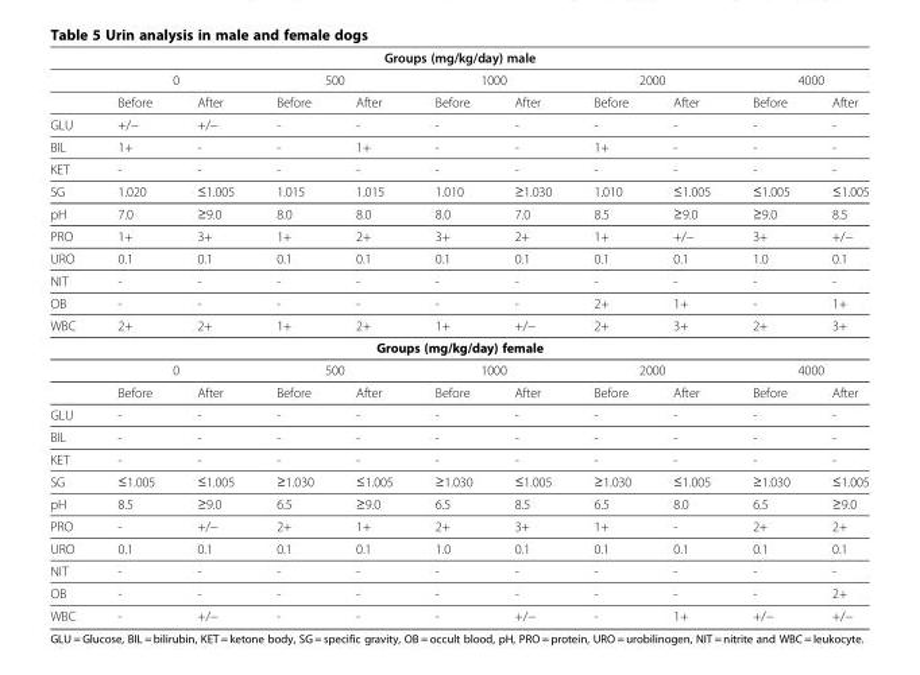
<table><thead><tr><td colspan="11">Groups (mg/kg/day) male</td></tr><tr><td rowspan="2"></td><td colspan="2">0</td><td colspan="2">500</td><td colspan="2">1000</td><td colspan="2">2000</td><td colspan="2">4000</td></tr><tr><td>Before</td><td>After</td><td>Before</td><td>After</td><td>Before</td><td>After</td><td>Before</td><td>After</td><td>Before</td><td>After</td></tr></thead><tbody><tr><td>GLU</td><td>+/−</td><td>+/−</td><td>-</td><td>-</td><td>-</td><td>-</td><td>-</td><td>-</td><td>-</td><td>-</td></tr><tr><td>BIL</td><td>1+</td><td>-</td><td>-</td><td>1+</td><td>-</td><td>-</td><td>1+</td><td>-</td><td>-</td><td>-</td></tr><tr><td>KET</td><td>-</td><td>-</td><td>-</td><td>-</td><td>-</td><td>-</td><td>-</td><td>-</td><td>-</td><td>-</td></tr><tr><td>SG</td><td>1.020</td><td>≤1.005</td><td>1.015</td><td>1.015</td><td>1.010</td><td>≥1.030</td><td>1.010</td><td>≤1.005</td><td>≤1.005</td><td>≤1.005</td></tr><tr><td>pH</td><td>7.0</td><td>≥9.0</td><td>8.0</td><td>8.0</td><td>8.0</td><td>7.0</td><td>8.5</td><td>≥9.0</td><td>≥9.0</td><td>8.5</td></tr><tr><td>PRO</td><td>1+</td><td>3+</td><td>1+</td><td>2+</td><td>3+</td><td>2+</td><td>1+</td><td>+/−</td><td>3+</td><td>+/−</td></tr><tr><td>URO</td><td>0.1</td><td>0.1</td><td>0.1</td><td>0.1</td><td>0.1</td><td>0.1</td><td>0.1</td><td>0.1</td><td>1.0</td><td>0.1</td></tr><tr><td>NIT</td><td>-</td><td>-</td><td>-</td><td>-</td><td>-</td><td>-</td><td>-</td><td>-</td><td>-</td><td>-</td></tr><tr><td>OB</td><td>-</td><td>-</td><td>-</td><td>-</td><td>-</td><td>-</td><td>2+</td><td>1+</td><td>-</td><td>1+</td></tr><tr><td>WBC</td><td>2+</td><td>2+</td><td>1+</td><td>2+</td><td>1+</td><td>+/−</td><td>2+</td><td>3+</td><td>2+</td><td>3+</td></tr><tr><td colspan="11">Groups (mg/kg/day) female</td></tr><tr><td></td><td colspan="2">0</td><td colspan="2">500</td><td colspan="2">1000</td><td colspan="2">2000</td><td colspan="2">4000</td></tr><tr><td></td><td>Before</td><td>After</td><td>Before</td><td>After</td><td>Before</td><td>After</td><td>Before</td><td>After</td><td>Before</td><td>After</td></tr><tr><td>GLU</td><td>-</td><td>-</td><td>-</td><td>-</td><td>-</td><td>-</td><td>-</td><td>-</td><td>-</td><td>-</td></tr><tr><td>BIL</td><td>-</td><td>-</td><td>-</td><td>-</td><td>-</td><td>-</td><td>-</td><td>-</td><td>-</td><td>-</td></tr><tr><td>KET</td><td>-</td><td>-</td><td>-</td><td>-</td><td>-</td><td>-</td><td>-</td><td>-</td><td>-</td><td>-</td></tr><tr><td>SG</td><td>≤1.005</td><td>≤1.005</td><td>≥1.030</td><td>≤1.005</td><td>≥1.030</td><td>≤1.005</td><td>≥1.030</td><td>≤1.005</td><td>≥1.030</td><td>≤1.005</td></tr><tr><td>pH</td><td>8.5</td><td>≥9.0</td><td>6.5</td><td>≥9.0</td><td>6.5</td><td>8.5</td><td>6.5</td><td>8.0</td><td>6.5</td><td>≥9.0</td></tr><tr><td>PRO</td><td>-</td><td>+/−</td><td>2+</td><td>1+</td><td>2+</td><td>3+</td><td>1+</td><td>-</td><td>2+</td><td>2+</td></tr><tr><td>URO</td><td>0.1</td><td>0.1</td><td>0.1</td><td>0.1</td><td>1.0</td><td>0.1</td><td>0.1</td><td>0.1</td><td>0.1</td><td>0.1</td></tr><tr><td>NIT</td><td>-</td><td>-</td><td>-</td><td>-</td><td>-</td><td>-</td><td>-</td><td>-</td><td>-</td><td>-</td></tr><tr><td>OB</td><td>-</td><td>-</td><td>-</td><td>-</td><td>-</td><td>-</td><td>-</td><td>-</td><td>-</td><td>2+</td></tr><tr><td>WBC</td><td>-</td><td>+/−</td><td>-</td><td>-</td><td>-</td><td>+/−</td><td>-</td><td>1+</td><td>+/−</td><td>+/−</td></tr></tbody></table>